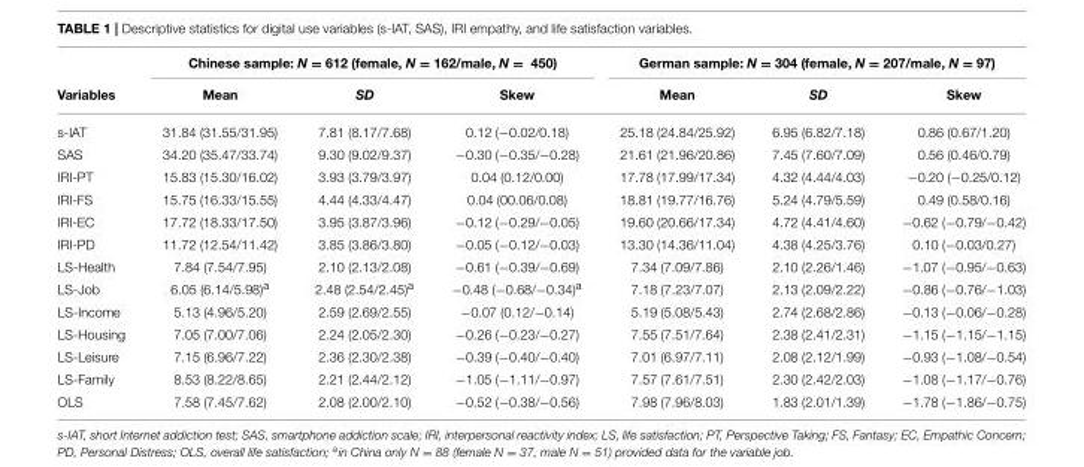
<table><thead><tr><td rowspan="2">Variables</td><td colspan="3">Chinese sample: N = 612 (female, N = 162/male, N = 450)</td><td colspan="3">German sample: N = 304 (female, N = 207/male, N = 97)</td></tr><tr><td>Mean</td><td>SD</td><td>Skew</td><td>Mean</td><td>SD</td><td>Skew</td></tr></thead><tbody><tr><td>s-IAT</td><td>31.84 (31.55/31.95)</td><td>7.81 (8.17/7.68)</td><td>0.12 (−0.02/0.18)</td><td>25.18 (24.84/25.92)</td><td>6.95 (6.82/7.18)</td><td>0.86 (0.67/1.20)</td></tr><tr><td>SAS</td><td>34.20 (35.47/33.74)</td><td>9.30 (9.02/9.37)</td><td>−0.30 (−0.35/−0.28)</td><td>21.61 (21.96/20.86)</td><td>7.45 (7.60/7.09)</td><td>0.56 (0.46/0.79)</td></tr><tr><td>IRI-PT</td><td>15.83 (15.30/16.02)</td><td>3.93 (3.79/3.97)</td><td>0.04 (0.12/0.00)</td><td>17.78 (17.99/17.34)</td><td>4.32 (4.44/4.03)</td><td>−0.20 (−0.25/0.12)</td></tr><tr><td>IRI-FS</td><td>15.75 (16.33/15.55)</td><td>4.44 (4.33/4.47)</td><td>0.04 (00.06/0.08)</td><td>18.81 (19.77/16.76)</td><td>5.24 (4.79/5.59)</td><td>0.49 (0.58/0.16)</td></tr><tr><td>IRI-EC</td><td>17.72 (18.33/17.50)</td><td>3.95 (3.87/3.96)</td><td>−0.12 (−0.29/−0.05)</td><td>19.60 (20.66/17.34)</td><td>4.72 (4.41/4.60)</td><td>−0.62 (−0.79/−0.42)</td></tr><tr><td>IRI-PD</td><td>11.72 (12.54/11.42)</td><td>3.85 (3.86/3.80)</td><td>−0.05 (−0.12/−0.03)</td><td>13.30 (14.36/11.04)</td><td>4.38 (4.25/3.76)</td><td>0.10 (−0.03/0.27)</td></tr><tr><td>LS-Health</td><td>7.84 (7.54/7.95)</td><td>2.10 (2.13/2.08)</td><td>−0.61 (−0.39/−0.69)</td><td>7.34 (7.09/7.86)</td><td>2.10 (2.26/1.46)</td><td>−1.07 (−0.95/−0.63)</td></tr><tr><td>LS-Job</td><td>6.05 (6.14/5.98)<sup>a</sup></td><td>2.48 (2.54/2.45)<sup>a</sup></td><td>−0.48 (−0.68/−0.34)<sup>a</sup></td><td>7.18 (7.23/7.07)</td><td>2.13 (2.09/2.22)</td><td>−0.86 (−0.76/−1.03)</td></tr><tr><td>LS-Income</td><td>5.13 (4.96/5.20)</td><td>2.59 (2.69/2.55)</td><td>−0.07 (0.12/−0.14)</td><td>5.19 (5.08/5.43)</td><td>2.74 (2.68/2.86)</td><td>−0.13 (−0.06/−0.28)</td></tr><tr><td>LS-Housing</td><td>7.05 (7.00/7.06)</td><td>2.24 (2.05/2.30)</td><td>−0.26 (−0.23/−0.27)</td><td>7.55 (7.51/7.64)</td><td>2.38 (2.41/2.31)</td><td>−1.15 (−1.15/−1.15)</td></tr><tr><td>LS-Leisure</td><td>7.15 (6.96/7.22)</td><td>2.36 (2.30/2.38)</td><td>−0.39 (−0.40/−0.40)</td><td>7.01 (6.97/7.11)</td><td>2.08 (2.12/1.99)</td><td>−0.93 (−1.08/−0.54)</td></tr><tr><td>LS-Family</td><td>8.53 (8.22/8.65)</td><td>2.21 (2.44/2.12)</td><td>−1.05 (−1.11/−0.97)</td><td>7.57 (7.61/7.51)</td><td>2.30 (2.42/2.03)</td><td>−1.08 (−1.17/−0.76)</td></tr><tr><td>OLS</td><td>7.58 (7.45/7.62)</td><td>2.08 (2.00/2.10)</td><td>−0.52 (−0.38/−0.56)</td><td>7.98 (7.96/8.03)</td><td>1.83 (2.01/1.39)</td><td>−1.78 (−1.86/−0.75)</td></tr></tbody></table>